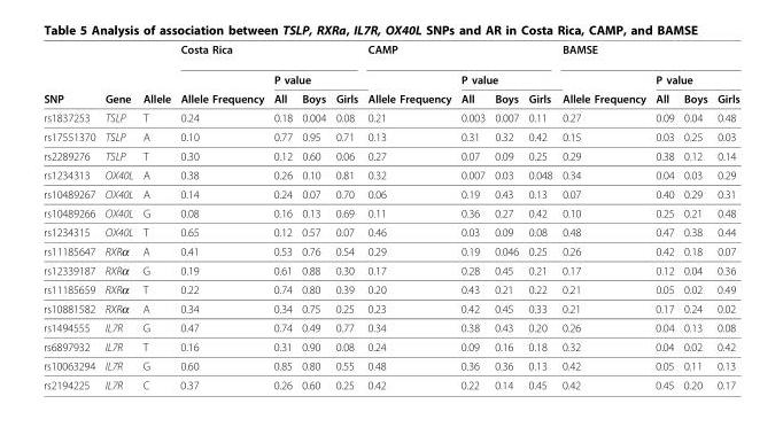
<table><thead><tr><td rowspan="3">SNP</td><td rowspan="3">Gene</td><td rowspan="3">Allele</td><td rowspan="3">Costa Rica Allele Frequency</td><td></td><td></td><td></td><td rowspan="3">CAMP Allele Frequency</td><td></td><td></td><td></td><td rowspan="3">BAMSE Allele Frequency</td><td></td><td></td><td></td></tr><tr><td colspan="3">P value</td><td colspan="3">P value</td><td colspan="3">P value</td></tr><tr><td>All</td><td>Boys</td><td>Girls</td><td>All</td><td>Boys</td><td>Girls</td><td>All</td><td>Boys</td><td>Girls</td></tr></thead><tbody><tr><td>rs1837253</td><td>TSLP</td><td>T</td><td>0.24</td><td>0.18</td><td>0.004</td><td>0.08</td><td>0.21</td><td>0.003</td><td>0.007</td><td>0.11</td><td>0.27</td><td>0.09</td><td>0.04</td><td>0.48</td></tr><tr><td>rs17551370</td><td>TSLP</td><td>A</td><td>0.10</td><td>0.77</td><td>0.95</td><td>0.71</td><td>0.13</td><td>0.31</td><td>0.32</td><td>0.42</td><td>0.15</td><td>0.03</td><td>0.25</td><td>0.03</td></tr><tr><td>rs2289276</td><td>TSLP</td><td>T</td><td>0.30</td><td>0.12</td><td>0.60</td><td>0.06</td><td>0.27</td><td>0.07</td><td>0.09</td><td>0.25</td><td>0.29</td><td>0.38</td><td>0.12</td><td>0.14</td></tr><tr><td>rs1234313</td><td>OX40L</td><td>A</td><td>0.38</td><td>0.26</td><td>0.10</td><td>0.81</td><td>0.32</td><td>0.007</td><td>0.03</td><td>0.048</td><td>0.34</td><td>0.04</td><td>0.03</td><td>0.29</td></tr><tr><td>rs10489267</td><td>OX40L</td><td>A</td><td>0.14</td><td>0.24</td><td>0.07</td><td>0.70</td><td>0.06</td><td>0.19</td><td>0.43</td><td>0.13</td><td>0.07</td><td>0.40</td><td>0.29</td><td>0.31</td></tr><tr><td>rs10489266</td><td>OX40L</td><td>G</td><td>0.08</td><td>0.16</td><td>0.13</td><td>0.69</td><td>0.11</td><td>0.36</td><td>0.27</td><td>0.42</td><td>0.10</td><td>0.25</td><td>0.21</td><td>0.48</td></tr><tr><td>rs1234315</td><td>OX40L</td><td>T</td><td>0.65</td><td>0.12</td><td>0.57</td><td>0.07</td><td>0.46</td><td>0.03</td><td>0.09</td><td>0.08</td><td>0.48</td><td>0.47</td><td>0.38</td><td>0.44</td></tr><tr><td>rs11185647</td><td>RXRα</td><td>A</td><td>0.41</td><td>0.53</td><td>0.76</td><td>0.54</td><td>0.29</td><td>0.19</td><td>0.046</td><td>0.25</td><td>0.26</td><td>0.42</td><td>0.18</td><td>0.07</td></tr><tr><td>rs12339187</td><td>RXRα</td><td>G</td><td>0.19</td><td>0.61</td><td>0.88</td><td>0.30</td><td>0.17</td><td>0.28</td><td>0.45</td><td>0.21</td><td>0.17</td><td>0.12</td><td>0.04</td><td>0.36</td></tr><tr><td>rs11185659</td><td>RXRα</td><td>T</td><td>0.22</td><td>0.74</td><td>0.80</td><td>0.39</td><td>0.20</td><td>0.43</td><td>0.21</td><td>0.22</td><td>0.21</td><td>0.05</td><td>0.02</td><td>0.49</td></tr><tr><td>rs10881582</td><td>RXRα</td><td>A</td><td>0.34</td><td>0.34</td><td>0.75</td><td>0.25</td><td>0.23</td><td>0.42</td><td>0.45</td><td>0.33</td><td>0.21</td><td>0.17</td><td>0.24</td><td>0.02</td></tr><tr><td>rs1494555</td><td>IL7R</td><td>G</td><td>0.47</td><td>0.74</td><td>0.49</td><td>0.77</td><td>0.34</td><td>0.38</td><td>0.43</td><td>0.20</td><td>0.26</td><td>0.04</td><td>0.13</td><td>0.08</td></tr><tr><td>rs6897932</td><td>IL7R</td><td>T</td><td>0.16</td><td>0.31</td><td>0.90</td><td>0.08</td><td>0.24</td><td>0.09</td><td>0.16</td><td>0.18</td><td>0.32</td><td>0.04</td><td>0.02</td><td>0.42</td></tr><tr><td>rs10063294</td><td>IL7R</td><td>G</td><td>0.60</td><td>0.85</td><td>0.80</td><td>0.55</td><td>0.48</td><td>0.36</td><td>0.36</td><td>0.13</td><td>0.42</td><td>0.05</td><td>0.11</td><td>0.13</td></tr><tr><td>rs2194225</td><td>IL7R</td><td>C</td><td>0.37</td><td>0.26</td><td>0.60</td><td>0.25</td><td>0.42</td><td>0.22</td><td>0.14</td><td>0.45</td><td>0.42</td><td>0.45</td><td>0.20</td><td>0.17</td></tr></tbody></table>